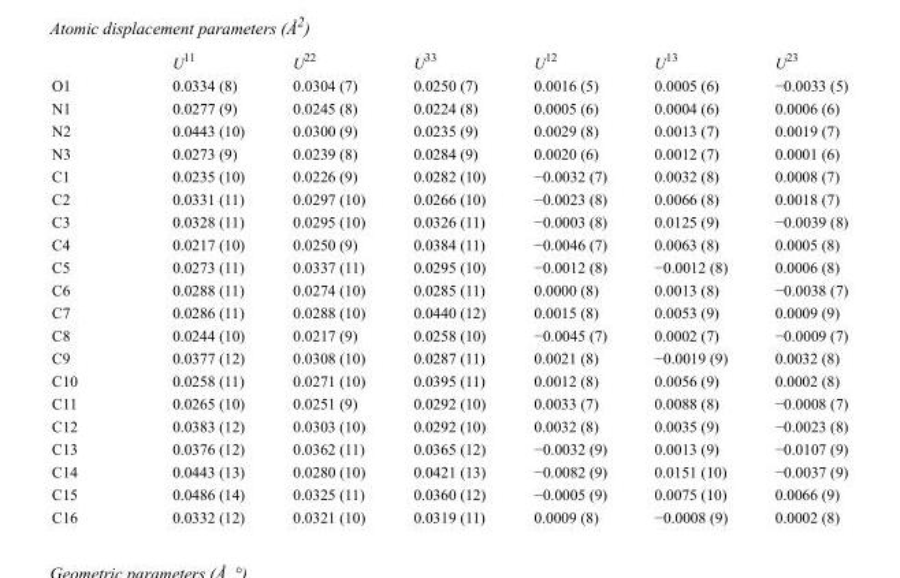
<table><thead><tr><td></td><td>U<sup>11</sup></td><td>U<sup>22</sup></td><td>U<sup>33</sup></td><td>U<sup>12</sup></td><td>U<sup>13</sup></td><td>U<sup>23</sup></td></tr></thead><tbody><tr><td>O1</td><td>0.0334 (8)</td><td>0.0304 (7)</td><td>0.0250 (7)</td><td>0.0016 (5)</td><td>0.0005 (6)</td><td>−0.0033 (5)</td></tr><tr><td>N1</td><td>0.0277 (9)</td><td>0.0245 (8)</td><td>0.0224 (8)</td><td>0.0005 (6)</td><td>0.0004 (6)</td><td>0.0006 (6)</td></tr><tr><td>N2</td><td>0.0443 (10)</td><td>0.0300 (9)</td><td>0.0235 (9)</td><td>0.0029 (8)</td><td>0.0013 (7)</td><td>0.0019 (7)</td></tr><tr><td>N3</td><td>0.0273 (9)</td><td>0.0239 (8)</td><td>0.0284 (9)</td><td>0.0020 (6)</td><td>0.0012 (7)</td><td>0.0001 (6)</td></tr><tr><td>C1</td><td>0.0235 (10)</td><td>0.0226 (9)</td><td>0.0282 (10)</td><td>−0.0032 (7)</td><td>0.0032 (8)</td><td>0.0008 (7)</td></tr><tr><td>C2</td><td>0.0331 (11)</td><td>0.0297 (10)</td><td>0.0266 (10)</td><td>−0.0023 (8)</td><td>0.0066 (8)</td><td>0.0018 (7)</td></tr><tr><td>C3</td><td>0.0328 (11)</td><td>0.0295 (10)</td><td>0.0326 (11)</td><td>−0.0003 (8)</td><td>0.0125 (9)</td><td>−0.0039 (8)</td></tr><tr><td>C4</td><td>0.0217 (10)</td><td>0.0250 (9)</td><td>0.0384 (11)</td><td>−0.0046 (7)</td><td>0.0063 (8)</td><td>0.0005 (8)</td></tr><tr><td>C5</td><td>0.0273 (11)</td><td>0.0337 (11)</td><td>0.0295 (10)</td><td>−0.0012 (8)</td><td>−0.0012 (8)</td><td>0.0006 (8)</td></tr><tr><td>C6</td><td>0.0288 (11)</td><td>0.0274 (10)</td><td>0.0285 (11)</td><td>0.0000 (8)</td><td>0.0013 (8)</td><td>−0.0038 (7)</td></tr><tr><td>C7</td><td>0.0286 (11)</td><td>0.0288 (10)</td><td>0.0440 (12)</td><td>0.0015 (8)</td><td>0.0053 (9)</td><td>0.0009 (9)</td></tr><tr><td>C8</td><td>0.0244 (10)</td><td>0.0217 (9)</td><td>0.0258 (10)</td><td>−0.0045 (7)</td><td>0.0002 (7)</td><td>−0.0009 (7)</td></tr><tr><td>C9</td><td>0.0377 (12)</td><td>0.0308 (10)</td><td>0.0287 (11)</td><td>0.0021 (8)</td><td>−0.0019 (9)</td><td>0.0032 (8)</td></tr><tr><td>C10</td><td>0.0258 (11)</td><td>0.0271 (10)</td><td>0.0395 (11)</td><td>0.0012 (8)</td><td>0.0056 (9)</td><td>0.0002 (8)</td></tr><tr><td>C11</td><td>0.0265 (10)</td><td>0.0251 (9)</td><td>0.0292 (10)</td><td>0.0033 (7)</td><td>0.0088 (8)</td><td>−0.0008 (7)</td></tr><tr><td>C12</td><td>0.0383 (12)</td><td>0.0303 (10)</td><td>0.0292 (10)</td><td>0.0032 (8)</td><td>0.0035 (9)</td><td>−0.0023 (8)</td></tr><tr><td>C13</td><td>0.0376 (12)</td><td>0.0362 (11)</td><td>0.0365 (12)</td><td>−0.0032 (9)</td><td>0.0013 (9)</td><td>−0.0107 (9)</td></tr><tr><td>C14</td><td>0.0443 (13)</td><td>0.0280 (10)</td><td>0.0421 (13)</td><td>−0.0082 (9)</td><td>0.0151 (10)</td><td>−0.0037 (9)</td></tr><tr><td>C15</td><td>0.0486 (14)</td><td>0.0325 (11)</td><td>0.0360 (12)</td><td>−0.0005 (9)</td><td>0.0075 (10)</td><td>0.0066 (9)</td></tr><tr><td>C16</td><td>0.0332 (12)</td><td>0.0321 (10)</td><td>0.0319 (11)</td><td>0.0009 (8)</td><td>−0.0008 (9)</td><td>0.0002 (8)</td></tr></tbody></table>